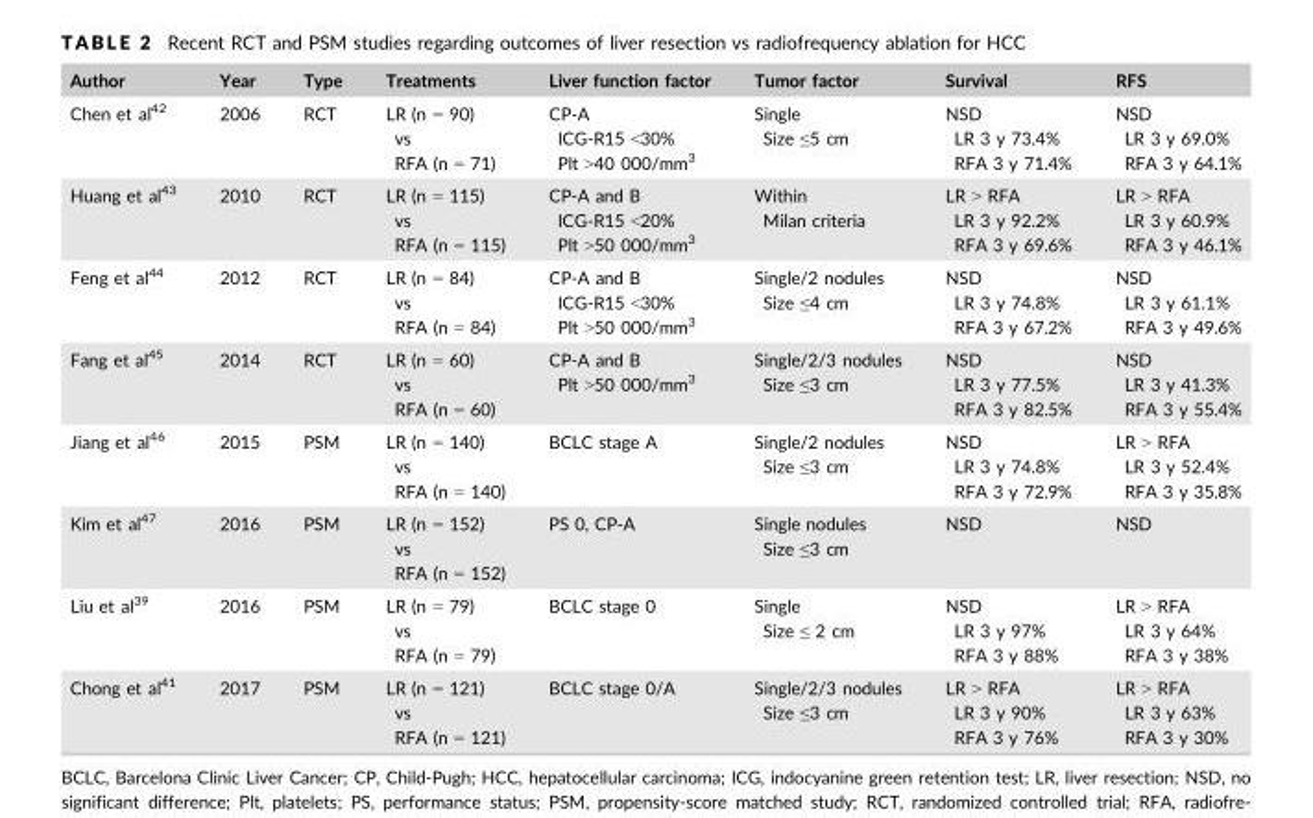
<table><thead><tr><td>Author</td><td>Year</td><td>Type</td><td>Treatments</td><td>Liver function factor</td><td>Tumor factor</td><td>Survival</td><td>RFS</td></tr></thead><tbody><tr><td>Chen et al<sup>42</sup></td><td>2006</td><td>RCT</td><td>LR (n = 90) vs RFA (n = 71)</td><td>CP-A ICG-R15 &lt;30% Plt &gt;40 000/mm<sup>3</sup></td><td>Single Size ≤5 cm</td><td>NSD LR 3 y 73.4% RFA 3 y 71.4%</td><td>NSD LR 3 y 69.0% RFA 3 y 64.1%</td></tr><tr><td>Huang et al<sup>43</sup></td><td>2010</td><td>RCT</td><td>LR (n = 115) vs RFA (n = 115)</td><td>CP-A and B ICG-R15 &lt;20% Plt &gt;50 000/mm<sup>3</sup></td><td>Within Milan criteria</td><td>LR &gt; RFA LR 3 y 92.2% RFA 3 y 69.6%</td><td>LR &gt; RFA LR 3 y 60.9% RFA 3 y 46.1%</td></tr><tr><td>Feng et al<sup>44</sup></td><td>2012</td><td>RCT</td><td>LR (n = 84) vs RFA (n = 84)</td><td>CP-A and B ICG-R15 &lt;30% Plt &gt;50 000/mm<sup>3</sup></td><td>Single/2 nodules Size ≤4 cm</td><td>NSD LR 3 y 74.8% RFA 3 y 67.2%</td><td>NSD LR 3 y 61.1% RFA 3 y 49.6%</td></tr><tr><td>Fang et al<sup>45</sup></td><td>2014</td><td>RCT</td><td>LR (n = 60) vs RFA (n = 60)</td><td>CP-A and B Plt &gt;50 000/mm<sup>3</sup></td><td>Single/2/3 nodules Size ≤3 cm</td><td>NSD LR 3 y 77.5% RFA 3 y 82.5%</td><td>NSD LR 3 y 41.3% RFA 3 y 55.4%</td></tr><tr><td>Jiang et al<sup>46</sup></td><td>2015</td><td>PSM</td><td>LR (n = 140) vs RFA (n = 140)</td><td>BCLC stage A</td><td>Single/2 nodules Size ≤3 cm</td><td>NSD LR 3 y 74.8% RFA 3 y 72.9%</td><td>LR &gt; RFA LR 3 y 52.4% RFA 3 y 35.8%</td></tr><tr><td>Kim et al<sup>47</sup></td><td>2016</td><td>PSM</td><td>LR (n = 152) vs RFA (n = 152)</td><td>PS 0, CP-A</td><td>Single nodules Size ≤3 cm</td><td>NSD</td><td>NSD</td></tr><tr><td>Liu et al<sup>39</sup></td><td>2016</td><td>PSM</td><td>LR (n = 79) vs RFA (n = 79)</td><td>BCLC stage 0</td><td>Single Size ≤ 2 cm</td><td>NSD LR 3 y 97% RFA 3 y 88%</td><td>LR &gt; RFA LR 3 y 64% RFA 3 y 38%</td></tr><tr><td>Chong et al<sup>41</sup></td><td>2017</td><td>PSM</td><td>LR (n = 121) vs RFA (n = 121)</td><td>BCLC stage 0/A</td><td>Single/2/3 nodules Size ≤3 cm</td><td>LR &gt; RFA LR 3 y 90% RFA 3 y 76%</td><td>LR &gt; RFA LR 3 y 63% RFA 3 y 30%</td></tr></tbody></table>